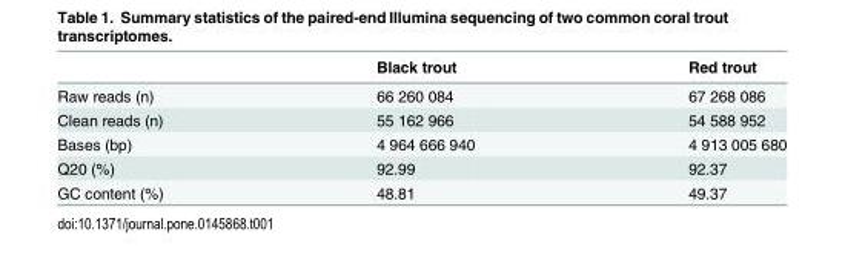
<table><thead><tr><td></td><td>Black trout</td><td>Red trout</td></tr></thead><tbody><tr><td>Raw reads (n)</td><td>66 260 084</td><td>67 268 086</td></tr><tr><td>Clean reads (n)</td><td>55 162 966</td><td>54 588 952</td></tr><tr><td>Bases (bp)</td><td>4 964 666 940</td><td>4 913 005 680</td></tr><tr><td>Q20 (%)</td><td>92.99</td><td>92.37</td></tr><tr><td>GC content (%)</td><td>48.81</td><td>49.37</td></tr></tbody></table>